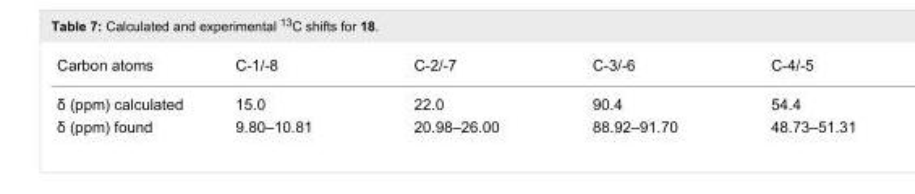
<table><tbody><tr><td>Carbon atoms</td><td>C-1/-8</td><td>C-2/-7</td><td>C-3/-6</td><td>C-4/-5</td></tr><tr><td>δ (ppm) calculated</td><td>15.0</td><td>22.0</td><td>90.4</td><td>54.4</td></tr><tr><td>δ (ppm) found</td><td>9.80–10.81</td><td>20.98–26.00</td><td>88.92–91.70</td><td>48.73–51.31</td></tr></tbody></table>